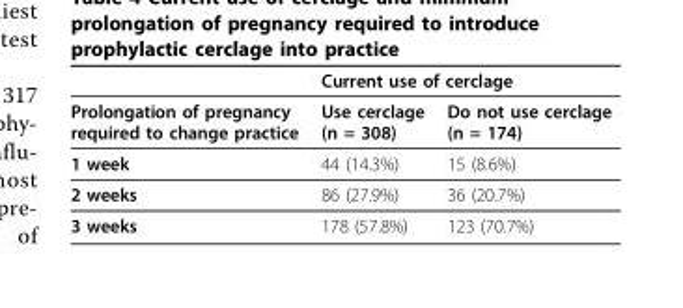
<table><thead><tr><td rowspan="2">Prolongation of pregnancy required to change practice</td><td colspan="2">Current use of cerclage</td></tr><tr><td>Use cerclage (n = 308)</td><td>Do not use cerclage (n = 174)</td></tr></thead><tbody><tr><td>1 week</td><td>44 (14.3%)</td><td>15 (8.6%)</td></tr><tr><td>2 weeks</td><td>86 (27.9%)</td><td>36 (20.7%)</td></tr><tr><td>3 weeks</td><td>178 (57.8%)</td><td>123 (70.7%)</td></tr></tbody></table>